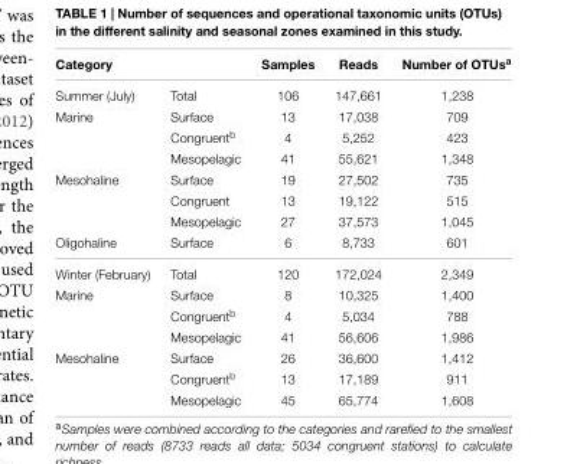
<table><thead><tr><td>Category</td><td></td><td>Samples</td><td>Reads</td><td>Number of OTUs<sup>a</sup></td></tr></thead><tbody><tr><td>Summer (July)</td><td>Total</td><td>106</td><td>147,661</td><td>1,238</td></tr><tr><td rowspan="3">Marine</td><td>Surface</td><td>13</td><td>17,038</td><td>709</td></tr><tr><td>Congruent<sup>b</sup></td><td>4</td><td>5,252</td><td>423</td></tr><tr><td>Mesopelagic</td><td>41</td><td>55,621</td><td>1,348</td></tr><tr><td rowspan="3">Mesohaline</td><td>Surface</td><td>19</td><td>27,502</td><td>735</td></tr><tr><td>Congruent</td><td>13</td><td>19,122</td><td>515</td></tr><tr><td>Mesopelagic</td><td>27</td><td>37,573</td><td>1,045</td></tr><tr><td>Oligohaline</td><td>Surface</td><td>6</td><td>8,733</td><td>601</td></tr><tr><td>Winter (February)</td><td>Total</td><td>120</td><td>172,024</td><td>2,349</td></tr><tr><td rowspan="3">Marine</td><td>Surface</td><td>8</td><td>10,325</td><td>1,400</td></tr><tr><td>Congruent<sup>b</sup></td><td>4</td><td>5,034</td><td>788</td></tr><tr><td>Mesopelagic</td><td>41</td><td>56,606</td><td>1,986</td></tr><tr><td rowspan="3">Mesohaline</td><td>Surface</td><td>26</td><td>36,600</td><td>1,412</td></tr><tr><td>Congruent<sup>b</sup></td><td>13</td><td>17,189</td><td>911</td></tr><tr><td>Mesopelagic</td><td>45</td><td>65,774</td><td>1,608</td></tr></tbody></table>